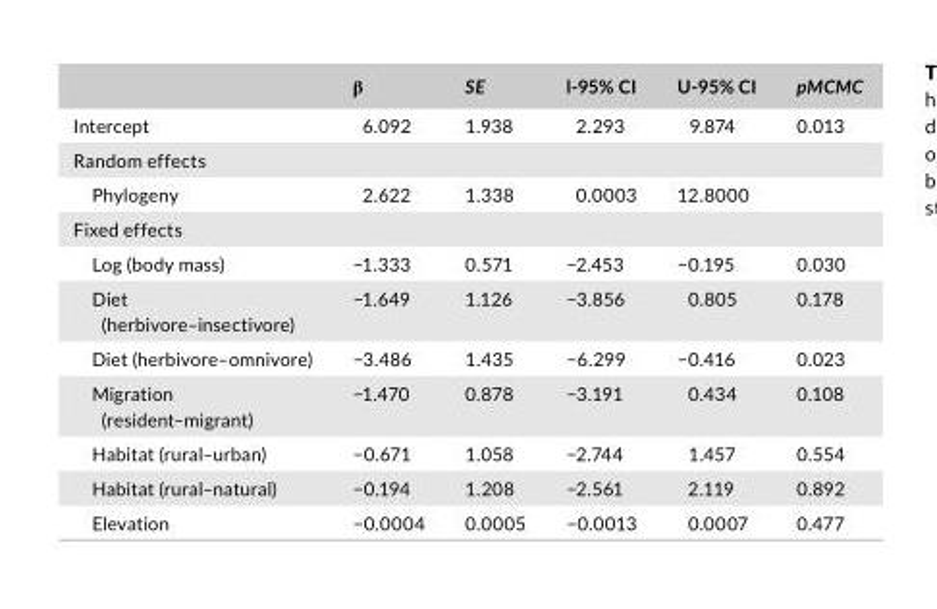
<table><thead><tr><td></td><td>β</td><td>SE</td><td>l- 95% CI</td><td>U- 95% CI</td><td>pMCMC</td></tr></thead><tbody><tr><td>Intercept</td><td>6.092</td><td>1.938</td><td>2.293</td><td>9.874</td><td>0.013</td></tr><tr><td colspan="6">Random effects</td></tr><tr><td>Phylogeny</td><td>2.622</td><td>1.338</td><td>0.0003</td><td>12.8000</td><td></td></tr><tr><td colspan="6">Fixed effects</td></tr><tr><td>Log (body mass)</td><td>−1.333</td><td>0.571</td><td>−2.453</td><td>−0.195</td><td>0.030</td></tr><tr><td>Diet (herbivore–insectivore)</td><td>−1.649</td><td>1.126</td><td>−3.856</td><td>0.805</td><td>0.178</td></tr><tr><td>Diet (herbivore–omnivore)</td><td>−3.486</td><td>1.435</td><td>−6.299</td><td>−0.416</td><td>0.023</td></tr><tr><td>Migration (resident–migrant)</td><td>−1.470</td><td>0.878</td><td>−3.191</td><td>0.434</td><td>0.108</td></tr><tr><td>Habitat (rural–urban)</td><td>−0.671</td><td>1.058</td><td>−2.744</td><td>1.457</td><td>0.554</td></tr><tr><td>Habitat (rural–natural)</td><td>−0.194</td><td>1.208</td><td>−2.561</td><td>2.119</td><td>0.892</td></tr><tr><td>Elevation</td><td>−0.0004</td><td>0.0005</td><td>−0.0013</td><td>0.0007</td><td>0.477</td></tr></tbody></table>